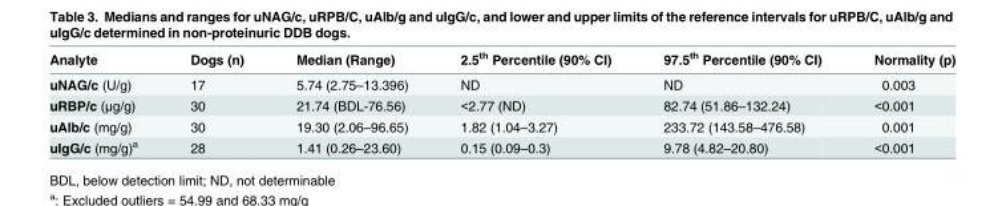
<table><thead><tr><td>Analyte</td><td>Dogs (n)</td><td>Median (Range)</td><td>2.5<sup>th</sup> Percentile (90% CI)</td><td>97.5<sup>th</sup> Percentile (90% CI)</td><td>Normality (p)</td></tr></thead><tbody><tr><td>uNAG/c (U/g)</td><td>17</td><td>5.74 (2.75–13.396)</td><td>ND</td><td>ND</td><td>0.003</td></tr><tr><td>uRBP/c (μg/g)</td><td>30</td><td>21.74 (BDL-76.56)</td><td>&lt;2.77 (ND)</td><td>82.74 (51.86–132.24)</td><td>&lt;0.001</td></tr><tr><td>uAlb/c (mg/g)</td><td>30</td><td>19.30 (2.06–96.65)</td><td>1.82 (1.04–3.27)</td><td>233.72 (143.58–476.58)</td><td>0.001</td></tr><tr><td>uIgG/c (mg/g)<sup>a</sup></td><td>28</td><td>1.41 (0.26–23.60)</td><td>0.15 (0.09–0.3)</td><td>9.78 (4.82–20.80)</td><td>&lt;0.001</td></tr></tbody></table>